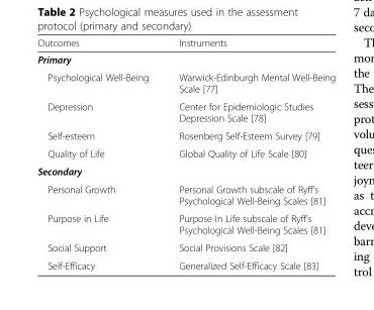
<table><thead><tr><td>Outcomes</td><td>Instruments</td></tr></thead><tbody><tr><td colspan="2">Primary</td></tr><tr><td>Psychological Well-Being</td><td>Warwick-Edinburgh Mental Well-Being Scale [77]</td></tr><tr><td>Depression</td><td>Center for Epidemiologic Studies Depression Scale [78]</td></tr><tr><td>Self-esteem</td><td>Rosenberg Self-Esteem Survey [79]</td></tr><tr><td>Quality of Life</td><td>Global Quality of Life Scale [80]</td></tr><tr><td colspan="2">Secondary</td></tr><tr><td>Personal Growth</td><td>Personal Growth subscale of Ryff’s Psychological Well-Being Scales [81]</td></tr><tr><td>Purpose in Life</td><td>Purpose In Life subscale of Ryff’s Psychological Well-Being Scales [81]</td></tr><tr><td>Social Support</td><td>Social Provisions Scale [82]</td></tr><tr><td>Self-Efficacy</td><td>Generalized Self-Efficacy Scale [83]</td></tr></tbody></table>